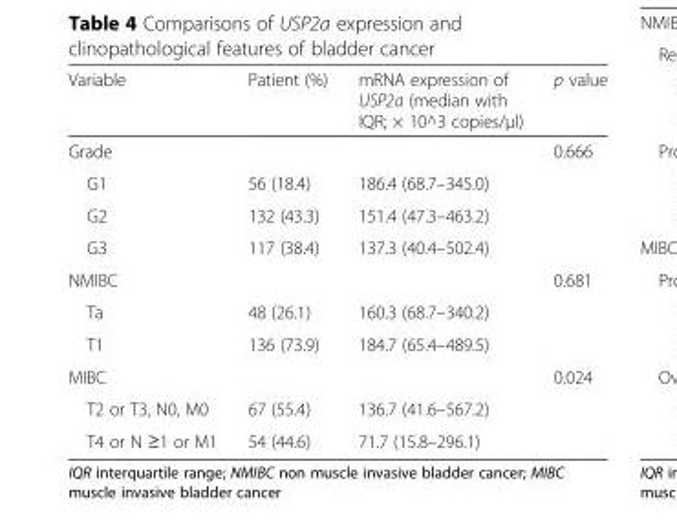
<table><thead><tr><td>Variable</td><td>Patient (%)</td><td>mRNA expression of USP2a (median with IQR; × 10^3 copies/μl)</td><td>p value</td></tr></thead><tbody><tr><td>Grade</td><td></td><td></td><td>0.666</td></tr><tr><td>G1</td><td>56 (18.4)</td><td>186.4 (68.7–345.0)</td><td></td></tr><tr><td>G2</td><td>132 (43.3)</td><td>151.4 (47.3–463.2)</td><td></td></tr><tr><td>G3</td><td>117 (38.4)</td><td>137.3 (40.4–502.4)</td><td></td></tr><tr><td>NMIBC</td><td></td><td></td><td>0.681</td></tr><tr><td>Ta</td><td>48 (26.1)</td><td>160.3 (68.7–340.2)</td><td></td></tr><tr><td>T1</td><td>136 (73.9)</td><td>184.7 (65.4–489.5)</td><td></td></tr><tr><td>MIBC</td><td></td><td></td><td>0.024</td></tr><tr><td>T2 or T3, N0, M0</td><td>67 (55.4)</td><td>136.7 (41.6–567.2)</td><td></td></tr><tr><td>T4 or N ≥1 or M1</td><td>54 (44.6)</td><td>71.7 (15.8–296.1)</td><td></td></tr></tbody></table>